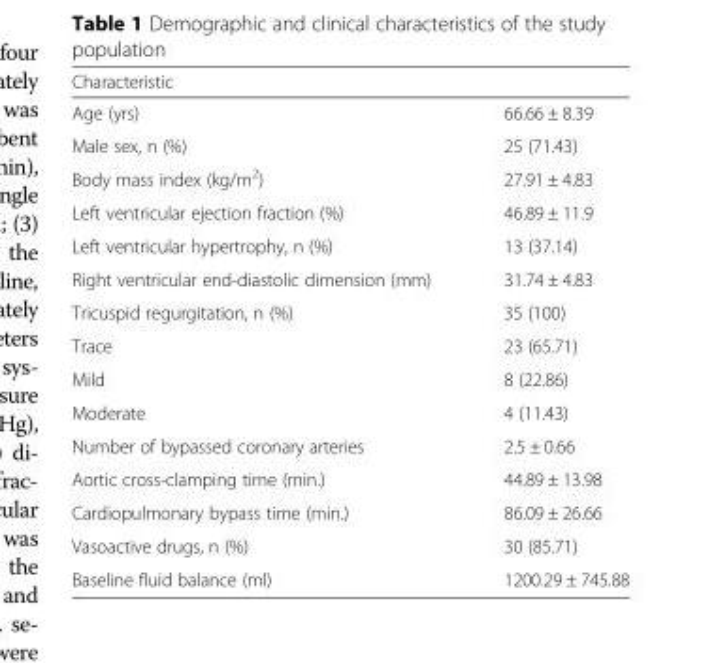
<table><thead><tr><td>Characteristic</td><td></td></tr></thead><tbody><tr><td>Age (yrs)</td><td>66.66 ± 8.39</td></tr><tr><td>Male sex, n (%)</td><td>25 (71.43)</td></tr><tr><td>Body mass index (kg/m<sup>2</sup>)</td><td>27.91 ± 4.83</td></tr><tr><td>Left ventricular ejection fraction (%)</td><td>46.89 ± 11.9</td></tr><tr><td>Left ventricular hypertrophy, n (%)</td><td>13 (37.14)</td></tr><tr><td>Right ventricular end-diastolic dimension (mm)</td><td>31.74 ± 4.83</td></tr><tr><td>Tricuspid regurgitation, n (%)</td><td>35 (100)</td></tr><tr><td>Trace</td><td>23 (65.71)</td></tr><tr><td>Mild</td><td>8 (22.86)</td></tr><tr><td>Moderate</td><td>4 (11.43)</td></tr><tr><td>Number of bypassed coronary arteries</td><td>2.5 ± 0.66</td></tr><tr><td>Aortic cross-clamping time (min.)</td><td>44.89 ± 13.98</td></tr><tr><td>Cardiopulmonary bypass time (min.)</td><td>86.09 ± 26.66</td></tr><tr><td>Vasoactive drugs, n (%)</td><td>30 (85.71)</td></tr><tr><td>Baseline fluid balance (ml)</td><td>1200.29 ± 745.88</td></tr></tbody></table>